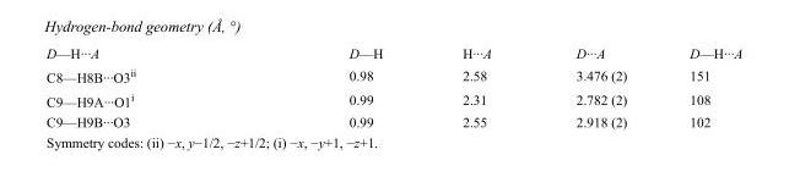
<table><tbody><tr><td>D—H···A</td><td>D—H</td><td>H···A</td><td>D···A</td><td>D—H···A</td></tr><tr><td>C8—H8B···O3<sup>ii</sup></td><td>0.98</td><td>2.58</td><td>3.476 (2)</td><td>151</td></tr><tr><td>C9—H9A···O1<sup>i</sup></td><td>0.99</td><td>2.31</td><td>2.782 (2)</td><td>108</td></tr><tr><td>C9—H9B···O3</td><td>0.99</td><td>2.55</td><td>2.918 (2)</td><td>102</td></tr></tbody></table>